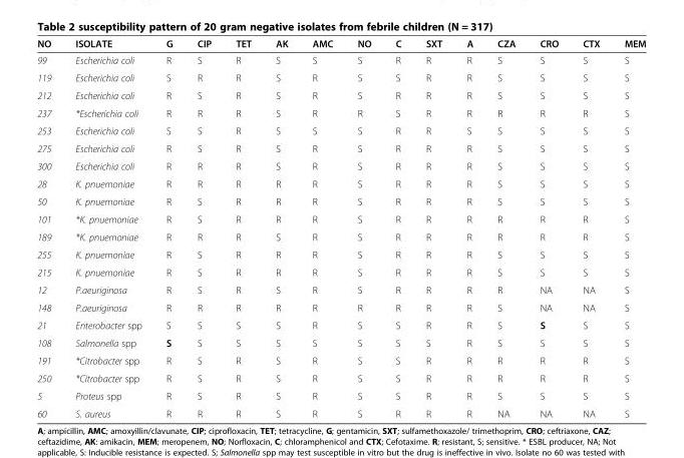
<table><thead><tr><td>NO</td><td>ISOLATE</td><td>G</td><td>CIP</td><td>TET</td><td>AK</td><td>AMC</td><td>NO</td><td>C</td><td>SXT</td><td>A</td><td>CZA</td><td>CRO</td><td>CTX</td><td>MEM</td></tr></thead><tbody><tr><td>99</td><td>Escherichia coli</td><td>R</td><td>S</td><td>R</td><td>S</td><td>S</td><td>S</td><td>R</td><td>R</td><td>R</td><td>S</td><td>S</td><td>S</td><td>S</td></tr><tr><td>119</td><td>Escherichia coli</td><td>S</td><td>R</td><td>R</td><td>S</td><td>R</td><td>S</td><td>S</td><td>R</td><td>R</td><td>S</td><td>S</td><td>S</td><td>S</td></tr><tr><td>212</td><td>Escherichia coli</td><td>R</td><td>S</td><td>R</td><td>S</td><td>R</td><td>S</td><td>R</td><td>R</td><td>R</td><td>S</td><td>S</td><td>S</td><td>S</td></tr><tr><td>237</td><td>*Escherichia coli</td><td>R</td><td>R</td><td>R</td><td>S</td><td>R</td><td>R</td><td>S</td><td>R</td><td>R</td><td>R</td><td>R</td><td>R</td><td>S</td></tr><tr><td>253</td><td>Escherichia coli</td><td>S</td><td>S</td><td>R</td><td>S</td><td>S</td><td>S</td><td>R</td><td>R</td><td>S</td><td>S</td><td>S</td><td>S</td><td>S</td></tr><tr><td>275</td><td>Escherichia coli</td><td>R</td><td>S</td><td>R</td><td>S</td><td>R</td><td>S</td><td>R</td><td>R</td><td>R</td><td>S</td><td>S</td><td>S</td><td>S</td></tr><tr><td>300</td><td>Escherichia coli</td><td>R</td><td>R</td><td>R</td><td>S</td><td>R</td><td>S</td><td>R</td><td>R</td><td>R</td><td>S</td><td>S</td><td>S</td><td>S</td></tr><tr><td>28</td><td>K. pnuemoniae</td><td>R</td><td>R</td><td>R</td><td>R</td><td>R</td><td>S</td><td>R</td><td>R</td><td>R</td><td>S</td><td>S</td><td>S</td><td>S</td></tr><tr><td>50</td><td>K. pnuemoniae</td><td>R</td><td>S</td><td>R</td><td>R</td><td>R</td><td>S</td><td>R</td><td>R</td><td>R</td><td>S</td><td>S</td><td>S</td><td>S</td></tr><tr><td>101</td><td>*K. pnuemoniae</td><td>R</td><td>S</td><td>R</td><td>R</td><td>R</td><td>S</td><td>R</td><td>R</td><td>R</td><td>R</td><td>R</td><td>R</td><td>S</td></tr><tr><td>189</td><td>*K. pnuemoniae</td><td>R</td><td>R</td><td>R</td><td>S</td><td>R</td><td>S</td><td>R</td><td>R</td><td>R</td><td>R</td><td>R</td><td>R</td><td>S</td></tr><tr><td>255</td><td>K. pnuemoniae</td><td>R</td><td>S</td><td>R</td><td>R</td><td>R</td><td>S</td><td>R</td><td>R</td><td>R</td><td>S</td><td>S</td><td>S</td><td>S</td></tr><tr><td>215</td><td>K. pnuemoniae</td><td>R</td><td>S</td><td>R</td><td>R</td><td>R</td><td>S</td><td>R</td><td>R</td><td>R</td><td>S</td><td>S</td><td>S</td><td>S</td></tr><tr><td>12</td><td>P.aeuriginosa</td><td>R</td><td>S</td><td>R</td><td>S</td><td>R</td><td>S</td><td>R</td><td>R</td><td>R</td><td>R</td><td>NA</td><td>NA</td><td>S</td></tr><tr><td>148</td><td>P.aeuriginosa</td><td>R</td><td>R</td><td>R</td><td>R</td><td>R</td><td>R</td><td>R</td><td>R</td><td>R</td><td>S</td><td>NA</td><td>NA</td><td>S</td></tr><tr><td>21</td><td>Enterobacter spp</td><td>S</td><td>S</td><td>S</td><td>S</td><td>R</td><td>S</td><td>S</td><td>R</td><td>R</td><td>S</td><td>S</td><td>S</td><td>S</td></tr><tr><td>108</td><td>Salmonella spp</td><td>S</td><td>S</td><td>S</td><td>S</td><td>S</td><td>S</td><td>S</td><td>S</td><td>R</td><td>S</td><td>S</td><td>S</td><td>S</td></tr><tr><td>191</td><td>*Citrobacter spp</td><td>R</td><td>S</td><td>R</td><td>S</td><td>R</td><td>S</td><td>S</td><td>R</td><td>R</td><td>R</td><td>R</td><td>R</td><td>S</td></tr><tr><td>250</td><td>*Citrobacter spp</td><td>R</td><td>S</td><td>R</td><td>S</td><td>R</td><td>S</td><td>S</td><td>R</td><td>R</td><td>R</td><td>R</td><td>R</td><td>S</td></tr><tr><td>5</td><td>Proteus spp</td><td>R</td><td>S</td><td>R</td><td>S</td><td>R</td><td>S</td><td>S</td><td>R</td><td>R</td><td>S</td><td>S</td><td>S</td><td>S</td></tr><tr><td>60</td><td>S. aureus</td><td>R</td><td>R</td><td>R</td><td>S</td><td>R</td><td>S</td><td>R</td><td>R</td><td>R</td><td>NA</td><td>NA</td><td>NA</td><td>S</td></tr></tbody></table>